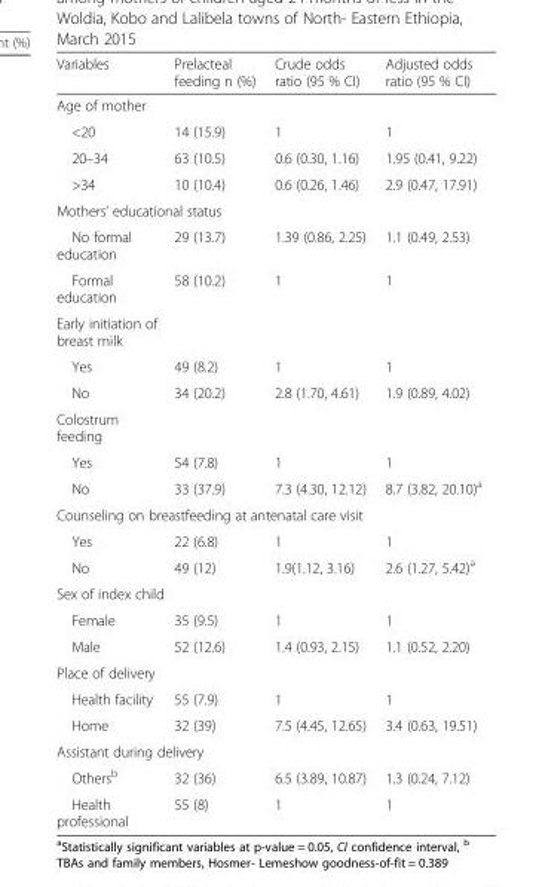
<table><thead><tr><td>Variables</td><td>Prelacteal feeding n (%)</td><td>Crude odds ratio (95 % CI)</td><td>Adjusted odds ratio (95 % CI)</td></tr></thead><tbody><tr><td colspan="4">Age of mother</td></tr><tr><td>&lt;20</td><td>14 (15.9)</td><td>1</td><td>1</td></tr><tr><td>20–34</td><td>63 (10.5)</td><td>0.6 (0.30, 1.16)</td><td>1.95 (0.41, 9.22)</td></tr><tr><td>&gt;34</td><td>10 (10.4)</td><td>0.6 (0.26, 1.46)</td><td>2.9 (0.47, 17.91)</td></tr><tr><td colspan="4">Mothers’ educational status</td></tr><tr><td>No formal education</td><td>29 (13.7)</td><td>1.39 (0.86, 2.25)</td><td>1.1 (0.49, 2.53)</td></tr><tr><td>Formal education</td><td>58 (10.2)</td><td>1</td><td>1</td></tr><tr><td colspan="4">Early initiation of breast milk</td></tr><tr><td>Yes</td><td>49 (8.2)</td><td>1</td><td>1</td></tr><tr><td>No</td><td>34 (20.2)</td><td>2.8 (1.70, 4.61)</td><td>1.9 (0.89, 4.02)</td></tr><tr><td colspan="4">Colostrum feeding</td></tr><tr><td>Yes</td><td>54 (7.8)</td><td>1</td><td>1</td></tr><tr><td>No</td><td>33 (37.9)</td><td>7.3 (4.30, 12.12)</td><td>8.7 (3.82, 20.10)<sup>a</sup></td></tr><tr><td colspan="4">Counseling on breastfeeding at antenatal care visit</td></tr><tr><td>Yes</td><td>22 (6.8)</td><td>1</td><td>1</td></tr><tr><td>No</td><td>49 (12)</td><td>1.9(1.12, 3.16)</td><td>2.6 (1.27, 5.42)<sup>a</sup></td></tr><tr><td colspan="4">Sex of index child</td></tr><tr><td>Female</td><td>35 (9.5)</td><td>1</td><td>1</td></tr><tr><td>Male</td><td>52 (12.6)</td><td>1.4 (0.93, 2.15)</td><td>1.1 (0.52, 2.20)</td></tr><tr><td colspan="4">Place of delivery</td></tr><tr><td>Health facility</td><td>55 (7.9)</td><td>1</td><td>1</td></tr><tr><td>Home</td><td>32 (39)</td><td>7.5 (4.45, 12.65)</td><td>3.4 (0.63, 19.51)</td></tr><tr><td colspan="4">Assistant during delivery</td></tr><tr><td>Others<sup>b</sup></td><td>32 (36)</td><td>6.5 (3.89, 10.87)</td><td>1.3 (0.24, 7.12)</td></tr><tr><td>Health professional</td><td>55 (8)</td><td>1</td><td>1</td></tr></tbody></table>